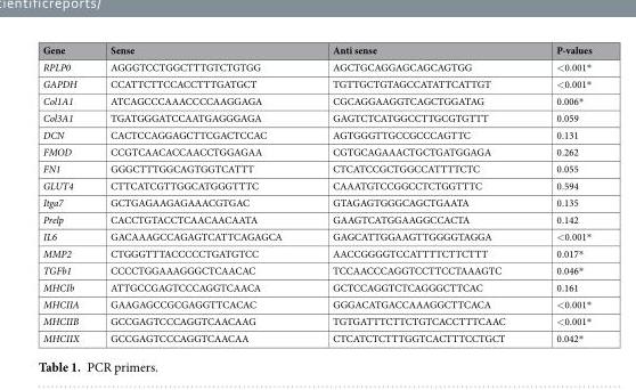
<table><thead><tr><td>Gene</td><td>Sense</td><td>Anti sense</td><td>P-values</td></tr></thead><tbody><tr><td>RPLP0</td><td>AGGGTCCTGGCTTTGTCTGTGG</td><td>AGCTGCAGGAGCAGCAGTGG</td><td>&lt;0.001*</td></tr><tr><td>GAPDH</td><td>CCATTCTTCCACCTTTGATGCT</td><td>TGTTGCTGTAGCCATATTCATTGT</td><td>&lt;0.001*</td></tr><tr><td>Col1A1</td><td>ATCAGCCCAAACCCCAAGGAGA</td><td>CGCAGGAAGGTCAGCTGGATAG</td><td>0.006*</td></tr><tr><td>Col3A1</td><td>TGATGGGATCCAATGAGGGAGA</td><td>GAGTCTCATGGCCTTGCGTGTTT</td><td>0.059</td></tr><tr><td>DCN</td><td>CACTCCAGGAGCTTCGACTCCAC</td><td>AGTGGGTTGCCGCCCAGTTC</td><td>0.131</td></tr><tr><td>FMOD</td><td>CCGTCAACACCAACCTGGAGAA</td><td>CGTGCAGAAACTGCTGATGGAGA</td><td>0.262</td></tr><tr><td>FN1</td><td>GGGCTTTGGCAGTGGTCATTT</td><td>CTCATCCGCTGGCCATTTTCTC</td><td>0.055</td></tr><tr><td>GLUT4</td><td>CTTCATCGTTGGCATGGGTTTC</td><td>CAAATGTCCGGCCTCTGGTTTC</td><td>0.594</td></tr><tr><td>Itga7</td><td>GCTGAGAAGAGAAACGTGAC</td><td>GTAGAGTGGGCAGCTGAATA</td><td>0.135</td></tr><tr><td>Prelp</td><td>CACCTGTACCTCAACAACAATA</td><td>GAAGTCATGGAAGGCCACTA</td><td>0.142</td></tr><tr><td>IL6</td><td>GACAAAGCCAGAGTCATTCAGAGCA</td><td>GAGCATTGGAAGTTGGGGTAGGA</td><td>&lt;0.001*</td></tr><tr><td>MMP2</td><td>CTGGGTTTACCCCCTGATGTCC</td><td>AACCGGGGTCCATTTTCTTCTTT</td><td>0.017*</td></tr><tr><td>TGFb1</td><td>CCCCTGGAAAGGGCTCAACAC</td><td>TCCAACCCAGGTCCTTCCTAAAGTC</td><td>0.046*</td></tr><tr><td>MHCIb</td><td>ATTGCCGAGTCCCAGGTCAACA</td><td>GCTCCAGGTCTCAGGGCTTCAC</td><td>0.161</td></tr><tr><td>MHCIIA</td><td>GAAGAGCCGCGAGGTTCACAC</td><td>GGGACATGACCAAAGGCTTCACA</td><td>&lt;0.001*</td></tr><tr><td>MHCIIB</td><td>GCCGAGTCCCAGGTCAACAAG</td><td>TGTGATTTCTTCTGTCACCTTTCAAC</td><td>&lt;0.001*</td></tr><tr><td>MHCIIX</td><td>GCCGAGTCCCAGGTCAACAA</td><td>CTCATCTCTTTGGTCACTTTCCTGCT</td><td>0.042*</td></tr></tbody></table>